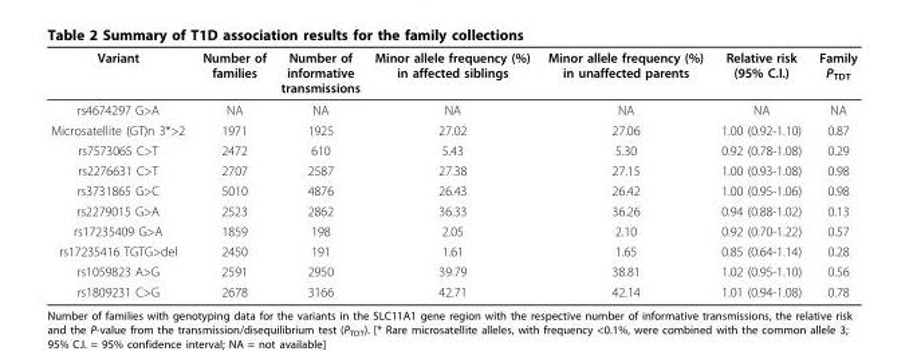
<table><thead><tr><td>Variant</td><td>Number of families</td><td>Number of informative transmissions</td><td>Minor allele frequency (%) in affected siblings</td><td>Minor allele frequency (%) in unaffected parents</td><td>Relative risk (95% C.I.)</td><td>Family P<sub>TDT</sub></td></tr></thead><tbody><tr><td>rs4674297 G&gt;A</td><td>NA</td><td>NA</td><td>NA</td><td>NA</td><td>NA</td><td>NA</td></tr><tr><td>Microsatellite (GT)n 3*&gt;2</td><td>1971</td><td>1925</td><td>27.02</td><td>27.06</td><td>1.00 (0.92-1.10)</td><td>0.87</td></tr><tr><td>rs7573065 C&gt;T</td><td>2472</td><td>610</td><td>5.43</td><td>5.30</td><td>0.92 (0.78-1.08)</td><td>0.29</td></tr><tr><td>rs2276631 C&gt;T</td><td>2707</td><td>2587</td><td>27.38</td><td>27.15</td><td>1.00 (0.93-1.08)</td><td>0.98</td></tr><tr><td>rs3731865 G&gt;C</td><td>5010</td><td>4876</td><td>26.43</td><td>26.42</td><td>1.00 (0.95-1.06)</td><td>0.98</td></tr><tr><td>rs2279015 G&gt;A</td><td>2523</td><td>2862</td><td>36.33</td><td>36.26</td><td>0.94 (0.88-1.02)</td><td>0.13</td></tr><tr><td>rs17235409 G&gt;A</td><td>1859</td><td>198</td><td>2.05</td><td>2.10</td><td>0.92 (0.70-1.22)</td><td>0.57</td></tr><tr><td>rs17235416 TGTG&gt;del</td><td>2450</td><td>191</td><td>1.61</td><td>1.65</td><td>0.85 (0.64-1.14)</td><td>0.28</td></tr><tr><td>rs1059823 A&gt;G</td><td>2591</td><td>2950</td><td>39.79</td><td>38.81</td><td>1.02 (0.95-1.10)</td><td>0.56</td></tr><tr><td>rs1809231 C&gt;G</td><td>2678</td><td>3166</td><td>42.71</td><td>42.14</td><td>1.01 (0.94-1.08)</td><td>0.78</td></tr></tbody></table>